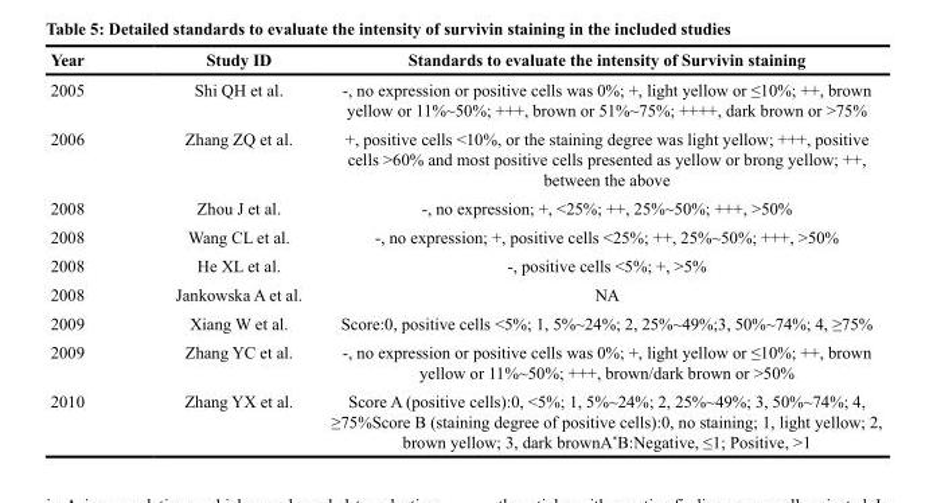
<table><thead><tr><td>Year</td><td>Study ID</td><td>Standards to evaluate the intensity of Survivin staining</td></tr></thead><tbody><tr><td>2005</td><td>Shi QH et al.</td><td>-, no expression or positive cells was 0%; +, light yellow or ≤10%; ++, brown yellow or 11%~50%; +++, brown or 51%~75%; ++++, dark brown or &gt;75%</td></tr><tr><td>2006</td><td>Zhang ZQ et al.</td><td>+, positive cells &lt;10%, or the staining degree was light yellow; +++, positive cells &gt;60% and most positive cells presented as yellow or brong yellow; ++, between the above</td></tr><tr><td>2008</td><td>Zhou J et al.</td><td>-, no expression; +, &lt;25%; ++, 25%~50%; +++, &gt;50%</td></tr><tr><td>2008</td><td>Wang CL et al.</td><td>-, no expression; +, positive cells &lt;25%; ++, 25%~50%; +++, &gt;50%</td></tr><tr><td>2008</td><td>He XL et al.</td><td>-, positive cells &lt;5%; +, &gt;5%</td></tr><tr><td>2008</td><td>Jankowska A et al.</td><td>NA</td></tr><tr><td>2009</td><td>Xiang W et al.</td><td>Score:0, positive cells &lt;5%; 1, 5%~24%; 2, 25%~49%;3, 50%~74%; 4, ≥75%</td></tr><tr><td>2009</td><td>Zhang YC et al.</td><td>-, no expression or positive cells was 0%; +, light yellow or ≤10%; ++, brown yellow or 11%~50%; +++, brown/dark brown or &gt;50%</td></tr><tr><td>2010</td><td>Zhang YX et al.</td><td>Score A (positive cells):0, &lt;5%; 1, 5%~24%; 2, 25%~49%; 3, 50%~74%; 4, ≥75%Score B (staining degree of positive cells):0, no staining; 1, light yellow; 2, brown yellow; 3, dark brownA*B:Negative, ≤1; Positive, &gt;1</td></tr></tbody></table>